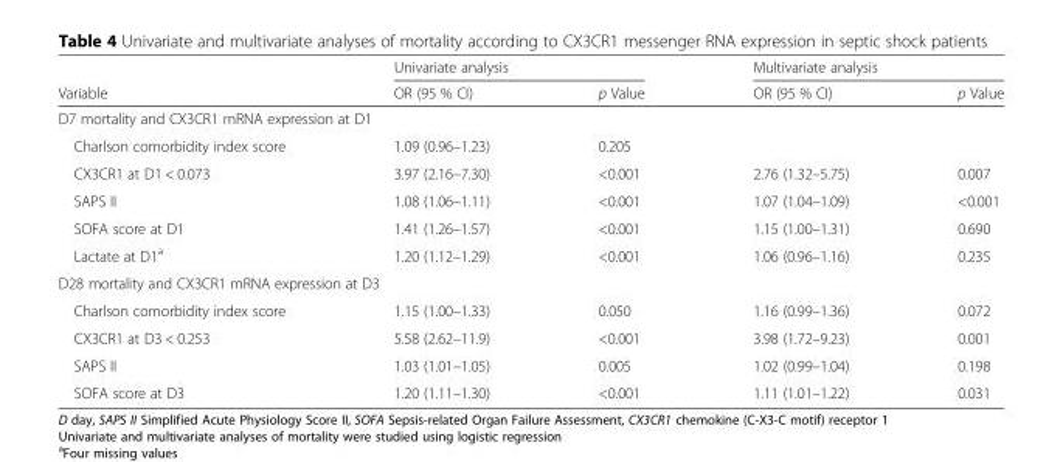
<table><thead><tr><td rowspan="2">Variable</td><td colspan="2">Univariate analysis</td><td colspan="2">Multivariate analysis</td></tr><tr><td>OR (95 % CI)</td><td>p Value</td><td>OR (95 % CI)</td><td>p Value</td></tr></thead><tbody><tr><td colspan="5">D7 mortality and CX3CR1 mRNA expression at D1</td></tr><tr><td>Charlson comorbidity index score</td><td>1.09 (0.96–1.23)</td><td>0.205</td><td></td><td></td></tr><tr><td>CX3CR1 at D1 &lt; 0.073</td><td>3.97 (2.16–7.30)</td><td>&lt;0.001</td><td>2.76 (1.32–5.75)</td><td>0.007</td></tr><tr><td>SAPS II</td><td>1.08 (1.06–1.11)</td><td>&lt;0.001</td><td>1.07 (1.04–1.09)</td><td>&lt;0.001</td></tr><tr><td>SOFA score at D1</td><td>1.41 (1.26–1.57)</td><td>&lt;0.001</td><td>1.15 (1.00–1.31)</td><td>0.690</td></tr><tr><td>Lactate at D1<sup>a</sup></td><td>1.20 (1.12–1.29)</td><td>&lt;0.001</td><td>1.06 (0.96–1.16)</td><td>0.235</td></tr><tr><td colspan="5">D28 mortality and CX3CR1 mRNA expression at D3</td></tr><tr><td>Charlson comorbidity index score</td><td>1.15 (1.00–1.33)</td><td>0.050</td><td>1.16 (0.99–1.36)</td><td>0.072</td></tr><tr><td>CX3CR1 at D3 &lt; 0.253</td><td>5.58 (2.62–11.9)</td><td>&lt;0.001</td><td>3.98 (1.72–9.23)</td><td>0.001</td></tr><tr><td>SAPS II</td><td>1.03 (1.01–1.05)</td><td>0.005</td><td>1.02 (0.99–1.04)</td><td>0.198</td></tr><tr><td>SOFA score at D3</td><td>1.20 (1.11–1.30)</td><td>&lt;0.001</td><td>1.11 (1.01–1.22)</td><td>0.031</td></tr></tbody></table>